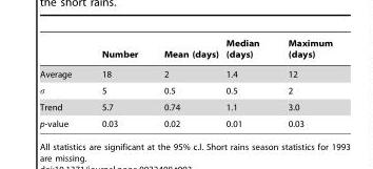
<table><thead><tr><td></td><td>Number</td><td>Mean (days)</td><td>Median (days)</td><td>Maximum (days)</td></tr></thead><tbody><tr><td rowspan="2">Average s</td><td>18</td><td>2</td><td>1.4</td><td>12</td></tr><tr><td>5</td><td>0.5</td><td>0.5</td><td>2</td></tr><tr><td>Trend</td><td>5.7</td><td>0.74</td><td>1.1</td><td>3.0</td></tr><tr><td>p-value</td><td>0.03</td><td>0.02</td><td>0.01</td><td>0.03</td></tr></tbody></table>